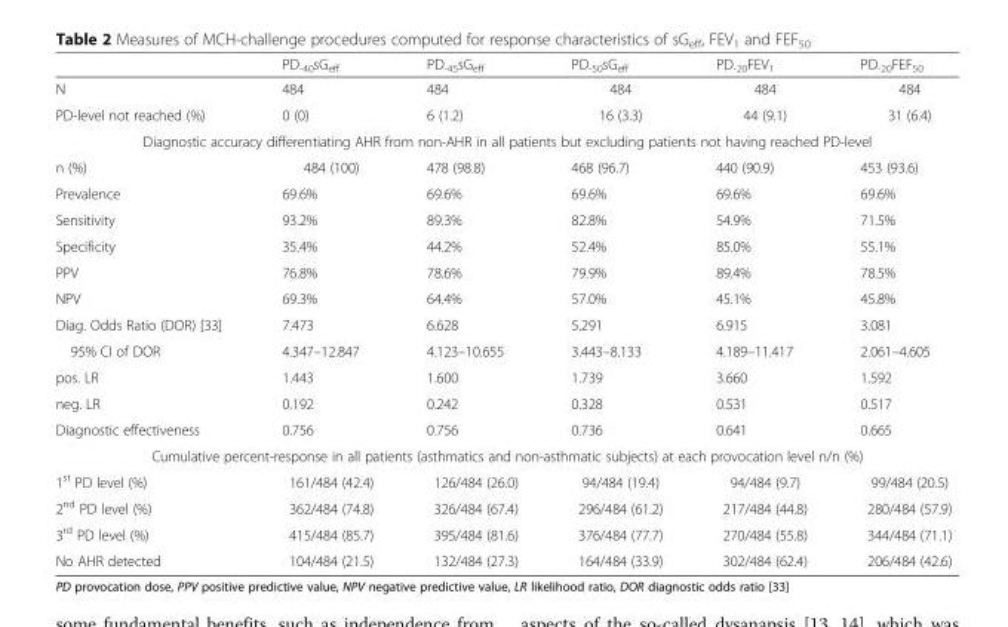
<table><thead><tr><td></td><td>PD<sub>-40</sub>sG<sub>eff</sub></td><td>PD<sub>-45</sub>sG<sub>eff</sub></td><td>PD<sub>-50</sub>sG<sub>eff</sub></td><td>PD<sub>-20</sub>FEV<sub>1</sub></td><td>PD<sub>-20</sub>FEF<sub>50</sub></td></tr></thead><tbody><tr><td>N</td><td>484</td><td>484</td><td>484</td><td>484</td><td>484</td></tr><tr><td>PD-level not reached (%)</td><td>0 (0)</td><td>6 (1.2)</td><td>16 (3.3)</td><td>44 (9.1)</td><td>31 (6.4)</td></tr><tr><td colspan="6">Diagnostic accuracy differentiating AHR from non-AHR in all patients but excluding patients not having reached PD-level</td></tr><tr><td>n (%)</td><td>484 (100)</td><td>478 (98.8)</td><td>468 (96.7)</td><td>440 (90.9)</td><td>453 (93.6)</td></tr><tr><td>Prevalence</td><td>69.6%</td><td>69.6%</td><td>69.6%</td><td>69.6%</td><td>69.6%</td></tr><tr><td>Sensitivity</td><td>93.2%</td><td>89.3%</td><td>82.8%</td><td>54.9%</td><td>71.5%</td></tr><tr><td>Specificity</td><td>35.4%</td><td>44.2%</td><td>52.4%</td><td>85.0%</td><td>55.1%</td></tr><tr><td>PPV</td><td>76.8%</td><td>78.6%</td><td>79.9%</td><td>89.4%</td><td>78.5%</td></tr><tr><td>NPV</td><td>69.3%</td><td>64.4%</td><td>57.0%</td><td>45.1%</td><td>45.8%</td></tr><tr><td>Diag. Odds Ratio (DOR) [33]</td><td>7.473</td><td>6.628</td><td>5.291</td><td>6.915</td><td>3.081</td></tr><tr><td>95% CI of DOR</td><td>4.347–12.847</td><td>4.123–10.655</td><td>3.443–8.133</td><td>4.189–11.417</td><td>2.061–4.605</td></tr><tr><td>pos. LR</td><td>1.443</td><td>1.600</td><td>1.739</td><td>3.660</td><td>1.592</td></tr><tr><td>neg. LR</td><td>0.192</td><td>0.242</td><td>0.328</td><td>0.531</td><td>0.517</td></tr><tr><td>Diagnostic effectiveness</td><td>0.756</td><td>0.756</td><td>0.736</td><td>0.641</td><td>0.665</td></tr><tr><td colspan="6">Cumulative percent-response in all patients (asthmatics and non-asthmatic subjects) at each provocation level n/n (%)</td></tr><tr><td>1<sup>st</sup> PD level (%)</td><td>161/484 (42.4)</td><td>126/484 (26.0)</td><td>94/484 (19.4)</td><td>94/484 (9.7)</td><td>99/484 (20.5)</td></tr><tr><td>2<sup>nd</sup> PD level (%)</td><td>362/484 (74.8)</td><td>326/484 (67.4)</td><td>296/484 (61.2)</td><td>217/484 (44.8)</td><td>280/484 (57.9)</td></tr><tr><td>3<sup>rd</sup> PD level (%)</td><td>415/484 (85.7)</td><td>395/484 (81.6)</td><td>376/484 (77.7)</td><td>270/484 (55.8)</td><td>344/484 (71.1)</td></tr><tr><td>No AHR detected</td><td>104/484 (21.5)</td><td>132/484 (27.3)</td><td>164/484 (33.9)</td><td>302/484 (62.4)</td><td>206/484 (42.6)</td></tr></tbody></table>